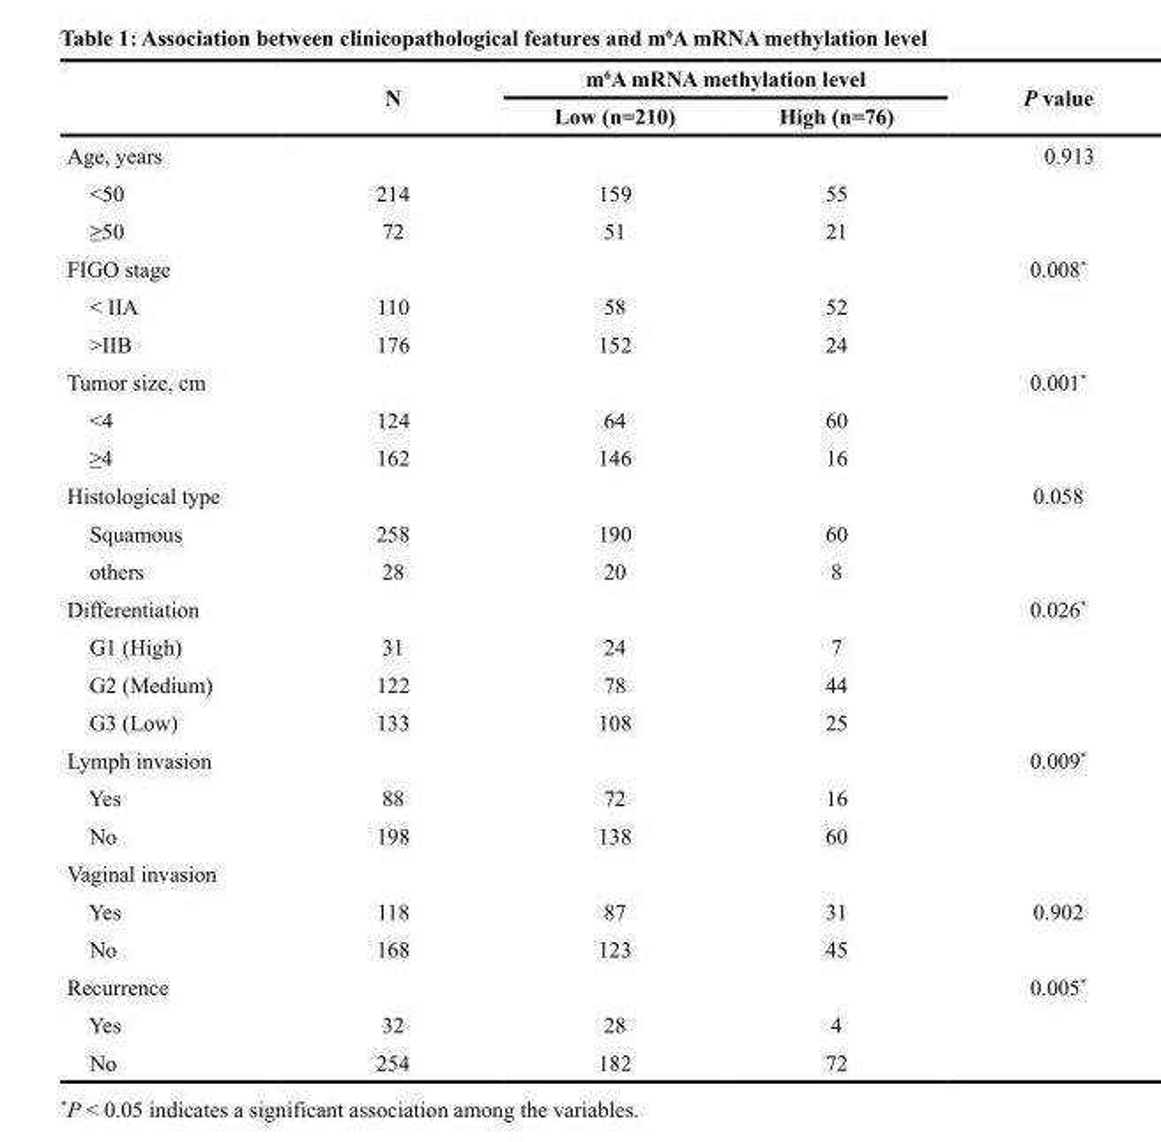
<table><thead><tr><td rowspan="2"></td><td rowspan="2">N</td><td colspan="2">m<sup>6</sup>A mRNA methylation level</td><td rowspan="2">P value</td></tr><tr><td>Low (n=210)</td><td>High (n=76)</td></tr></thead><tbody><tr><td>Age, years</td><td></td><td></td><td></td><td>0.913</td></tr><tr><td>&lt;50</td><td>214</td><td>159</td><td>55</td><td></td></tr><tr><td>≥50</td><td>72</td><td>51</td><td>21</td><td></td></tr><tr><td>FIGO stage</td><td></td><td></td><td></td><td>0.008*</td></tr><tr><td>&lt; IIA</td><td>110</td><td>58</td><td>52</td><td></td></tr><tr><td>&gt;IIB</td><td>176</td><td>152</td><td>24</td><td></td></tr><tr><td>Tumor size, cm</td><td></td><td></td><td></td><td>0.001*</td></tr><tr><td>&lt;4</td><td>124</td><td>64</td><td>60</td><td></td></tr><tr><td>≥4</td><td>162</td><td>146</td><td>16</td><td></td></tr><tr><td>Histological type</td><td></td><td></td><td></td><td>0.058</td></tr><tr><td>Squamous</td><td>258</td><td>190</td><td>60</td><td></td></tr><tr><td>others</td><td>28</td><td>20</td><td>8</td><td></td></tr><tr><td>Differentiation</td><td></td><td></td><td></td><td>0.026*</td></tr><tr><td>G1 (High)</td><td>31</td><td>24</td><td>7</td><td></td></tr><tr><td>G2 (Medium)</td><td>122</td><td>78</td><td>44</td><td></td></tr><tr><td>G3 (Low)</td><td>133</td><td>108</td><td>25</td><td></td></tr><tr><td>Lymph invasion</td><td></td><td></td><td></td><td>0.009*</td></tr><tr><td>Yes</td><td>88</td><td>72</td><td>16</td><td></td></tr><tr><td>No</td><td>198</td><td>138</td><td>60</td><td></td></tr><tr><td colspan="5">Vaginal invasion</td></tr><tr><td>Yes</td><td>118</td><td>87</td><td>31</td><td>0.902</td></tr><tr><td>No</td><td>168</td><td>123</td><td>45</td><td></td></tr><tr><td>Recurrence</td><td></td><td></td><td></td><td>0.005*</td></tr><tr><td>Yes</td><td>32</td><td>28</td><td>4</td><td></td></tr><tr><td>No</td><td>254</td><td>182</td><td>72</td><td></td></tr></tbody></table>